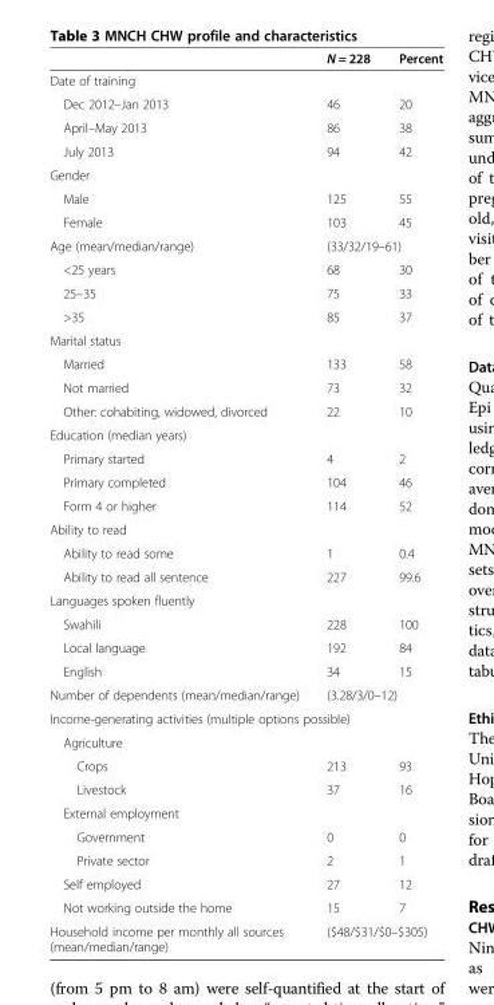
<table><thead><tr><td></td><td>N = 228</td><td>Percent</td></tr></thead><tbody><tr><td colspan="3">Date of training</td></tr><tr><td>Dec 2012–Jan 2013</td><td>46</td><td>20</td></tr><tr><td>April–May 2013</td><td>86</td><td>38</td></tr><tr><td>July 2013</td><td>94</td><td>42</td></tr><tr><td colspan="3">Gender</td></tr><tr><td>Male</td><td>125</td><td>55</td></tr><tr><td>Female</td><td>103</td><td>45</td></tr><tr><td>Age (mean/median/range)</td><td colspan="2">(33/32/19–61)</td></tr><tr><td>&lt;25 years</td><td>68</td><td>30</td></tr><tr><td>25–35</td><td>75</td><td>33</td></tr><tr><td>&gt;35</td><td>85</td><td>37</td></tr><tr><td colspan="3">Marital status</td></tr><tr><td>Married</td><td>133</td><td>58</td></tr><tr><td>Not married</td><td>73</td><td>32</td></tr><tr><td>Other: cohabiting, widowed, divorced</td><td>22</td><td>10</td></tr><tr><td colspan="3">Education (median years)</td></tr><tr><td>Primary started</td><td>4</td><td>2</td></tr><tr><td>Primary completed</td><td>104</td><td>46</td></tr><tr><td>Form 4 or higher</td><td>114</td><td>52</td></tr><tr><td colspan="3">Ability to read</td></tr><tr><td>Ability to read some</td><td>1</td><td>0.4</td></tr><tr><td>Ability to read all sentence</td><td>227</td><td>99.6</td></tr><tr><td colspan="3">Languages spoken fluently</td></tr><tr><td>Swahili</td><td>228</td><td>100</td></tr><tr><td>Local language</td><td>192</td><td>84</td></tr><tr><td>English</td><td>34</td><td>15</td></tr><tr><td>Number of dependents (mean/median/range)</td><td colspan="2">(3.28/3/0–12)</td></tr><tr><td colspan="3">Income-generating activities (multiple options possible)</td></tr><tr><td colspan="3">Agriculture</td></tr><tr><td>Crops</td><td>213</td><td>93</td></tr><tr><td>Livestock</td><td>37</td><td>16</td></tr><tr><td colspan="3">External employment</td></tr><tr><td>Government</td><td>0</td><td>0</td></tr><tr><td>Private sector</td><td>2</td><td>1</td></tr><tr><td>Self employed</td><td>27</td><td>12</td></tr><tr><td>Not working outside the home</td><td>15</td><td>7</td></tr><tr><td>Household income per monthly all sources (mean/median/range)</td><td colspan="2">($48/$31/$0–$305)</td></tr></tbody></table>